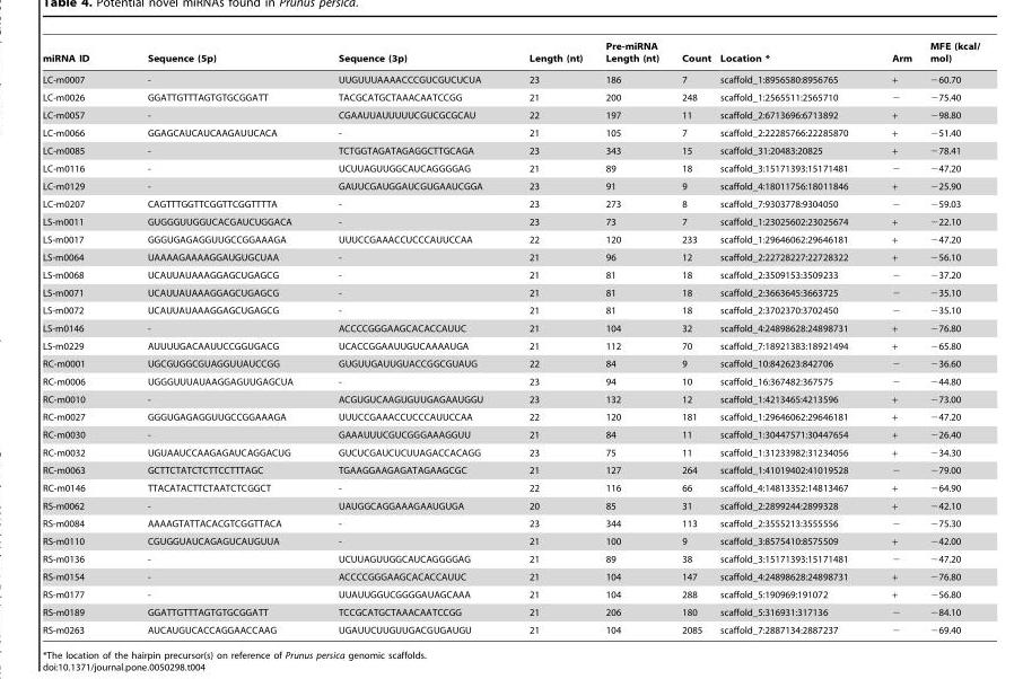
<table><thead><tr><td>miRNA ID</td><td>Sequence (5p)</td><td>Sequence (3p)</td><td>Length (nt)</td><td>Pre-miRNA Length (nt)</td><td>Count</td><td>Location *</td><td>Arm</td><td>MFE (kcal/ mol)</td></tr></thead><tbody><tr><td>LC-m0007</td><td>-</td><td>UUGUUUAAAACCCGUCGUCUCUA</td><td>23</td><td>186</td><td>7</td><td>scaffold_1:8956580:8956765</td><td>+</td><td>−60.70</td></tr><tr><td>LC-m0026</td><td>GGATTGTTTAGTGTGCGGATT</td><td>TACGCATGCTAAACAATCCGG</td><td>21</td><td>200</td><td>248</td><td>scaffold_1:2565511:2565710</td><td>−</td><td>−75.40</td></tr><tr><td>LC-m0057</td><td>-</td><td>CGAAUUAUUUUUCGUCGCGCAU</td><td>22</td><td>197</td><td>11</td><td>scaffold_2:6713696:6713892</td><td>+</td><td>−98.80</td></tr><tr><td>LC-m0066</td><td>GGAGCAUCAUCAAGAUUCACA</td><td>-</td><td>21</td><td>105</td><td>7</td><td>scaffold_2:22285766:22285870</td><td>+</td><td>−51.40</td></tr><tr><td>LC-m0085</td><td>-</td><td>TCTGGTAGATAGAGGCTTGCAGA</td><td>23</td><td>343</td><td>15</td><td>scaffold_31:20483:20825</td><td>+</td><td>−78.41</td></tr><tr><td>LC-m0116</td><td>-</td><td>UCUUAGUUGGCAUCAGGGGAG</td><td>21</td><td>89</td><td>18</td><td>scaffold_3:15171393:15171481</td><td>−</td><td>−47.20</td></tr><tr><td>LC-m0129</td><td>-</td><td>GAUUCGAUGGAUCGUGAAUCGGA</td><td>23</td><td>91</td><td>9</td><td>scaffold_4:18011756:18011846</td><td>+</td><td>−25.90</td></tr><tr><td>LC-m0207</td><td>CAGTTTGGTTCGGTTCGGTTTTA</td><td>-</td><td>23</td><td>273</td><td>8</td><td>scaffold_7:9303778:9304050</td><td>−</td><td>−59.03</td></tr><tr><td>LS-m0011</td><td>GUGGGUUGGUCACGAUCUGGACA</td><td>-</td><td>23</td><td>73</td><td>7</td><td>scaffold_1:23025602:23025674</td><td>+</td><td>−22.10</td></tr><tr><td>LS-m0017</td><td>GGGUGAGAGGUUGCCGGAAAGA</td><td>UUUCCGAAACCUCCCAUUCCAA</td><td>22</td><td>120</td><td>233</td><td>scaffold_1:29646062:29646181</td><td>+</td><td>−47.20</td></tr><tr><td>LS-m0064</td><td>UAAAAGAAAAGGAUGUGCUAA</td><td>-</td><td>21</td><td>96</td><td>12</td><td>scaffold_2:22728227:22728322</td><td>+</td><td>−56.10</td></tr><tr><td>LS-m0068</td><td>UCAUUAUAAAGGAGCUGAGCG</td><td>-</td><td>21</td><td>81</td><td>18</td><td>scaffold_2:3509153:3509233</td><td>−</td><td>−37.20</td></tr><tr><td>LS-m0071</td><td>UCAUUAUAAAGGAGCUGAGCG</td><td>-</td><td>21</td><td>81</td><td>18</td><td>scaffold_2:3663645:3663725</td><td>−</td><td>−35.10</td></tr><tr><td>LS-m0072</td><td>UCAUUAUAAAGGAGCUGAGCG</td><td>-</td><td>21</td><td>81</td><td>18</td><td>scaffold_2:3702370:3702450</td><td>−</td><td>−35.10</td></tr><tr><td>LS-m0146</td><td>-</td><td>ACCCCGGGAAGCACACCAUUC</td><td>21</td><td>104</td><td>32</td><td>scaffold_4:24898628:24898731</td><td>+</td><td>−76.80</td></tr><tr><td>LS-m0229</td><td>AUUUUGACAAUUCCGGUGACG</td><td>UCACCGGAAUUGUCAAAAUGA</td><td>21</td><td>112</td><td>70</td><td>scaffold_7:18921383:18921494</td><td>+</td><td>−65.80</td></tr><tr><td>RC-m0001</td><td>UGCGUGGCGUAGGUUAUCCGG</td><td>GUGUUGAUUGUACCGGCGUAUG</td><td>22</td><td>84</td><td>9</td><td>scaffold_10:842623:842706</td><td>−</td><td>−36.60</td></tr><tr><td>RC-m0006</td><td>UGGGUUUAUAAGGAGUUGAGCUA</td><td>-</td><td>23</td><td>94</td><td>10</td><td>scaffold_16:367482:367575</td><td>−</td><td>−44.80</td></tr><tr><td>RC-m0010</td><td>-</td><td>ACGUGUCAAGUGUUGAGAAUGGU</td><td>23</td><td>132</td><td>12</td><td>scaffold_1:4213465:4213596</td><td>+</td><td>−73.00</td></tr><tr><td>RC-m0027</td><td>GGGUGAGAGGUUGCCGGAAAGA</td><td>UUUCCGAAACCUCCCAUUCCAA</td><td>22</td><td>120</td><td>181</td><td>scaffold_1:29646062:29646181</td><td>+</td><td>−47.20</td></tr><tr><td>RC-m0030</td><td>-</td><td>GAAAUUUCGUCGGGAAAGGUU</td><td>21</td><td>84</td><td>11</td><td>scaffold_1:30447571:30447654</td><td>+</td><td>−26.40</td></tr><tr><td>RC-m0032</td><td>UGUAAUCCAAGAGAUCAGGACUG</td><td>GUCUCGAUCUCUUAGACCACAGG</td><td>23</td><td>75</td><td>11</td><td>scaffold_1:31233982:31234056</td><td>+</td><td>−34.30</td></tr><tr><td>RC-m0063</td><td>GCTTCTATCTCTTCCTTTAGC</td><td>TGAAGGAAGAGATAGAAGCGC</td><td>21</td><td>127</td><td>264</td><td>scaffold_1:41019402:41019528</td><td>−</td><td>−79.00</td></tr><tr><td>RC-m0146</td><td>TTACATACTTCTAATCTCGGCT</td><td>-</td><td>22</td><td>116</td><td>66</td><td>scaffold_4:14813352:14813467</td><td>+</td><td>−64.90</td></tr><tr><td>RS-m0062</td><td>-</td><td>UAUGGCAGGAAAGAAUGUGA</td><td>20</td><td>85</td><td>31</td><td>scaffold_2:2899244:2899328</td><td>+</td><td>−42.10</td></tr><tr><td>RS-m0084</td><td>AAAAGTATTACACGTCGGTTACA</td><td>-</td><td>23</td><td>344</td><td>113</td><td>scaffold_2:3555213:3555556</td><td>−</td><td>−75.30</td></tr><tr><td>RS-m0110</td><td>CGUGGUAUCAGAGUCAUGUUA</td><td>-</td><td>21</td><td>100</td><td>9</td><td>scaffold_3:8575410:8575509</td><td>+</td><td>−42.00</td></tr><tr><td>RS-m0136</td><td>-</td><td>UCUUAGUUGGCAUCAGGGGAG</td><td>21</td><td>89</td><td>38</td><td>scaffold_3:15171393:15171481</td><td>−</td><td>−47.20</td></tr><tr><td>RS-m0154</td><td>-</td><td>ACCCCGGGAAGCACACCAUUC</td><td>21</td><td>104</td><td>147</td><td>scaffold_4:24898628:24898731</td><td>+</td><td>−76.80</td></tr><tr><td>RS-m0177</td><td>-</td><td>UUAUUGGUCGGGGAUAGCAAA</td><td>21</td><td>104</td><td>288</td><td>scaffold_5:190969:191072</td><td>+</td><td>−56.80</td></tr><tr><td>RS-m0189</td><td>GGATTGTTTAGTGTGCGGATT</td><td>TCCGCATGCTAAACAATCCGG</td><td>21</td><td>206</td><td>180</td><td>scaffold_5:316931:317136</td><td>−</td><td>−84.10</td></tr><tr><td>RS-m0263</td><td>AUCAUGUCACCAGGAACCAAG</td><td>UGAUUCUUGUUGACGUGAUGU</td><td>21</td><td>104</td><td>2085</td><td>scaffold_7:2887134:2887237</td><td>−</td><td>−69.40</td></tr></tbody></table>